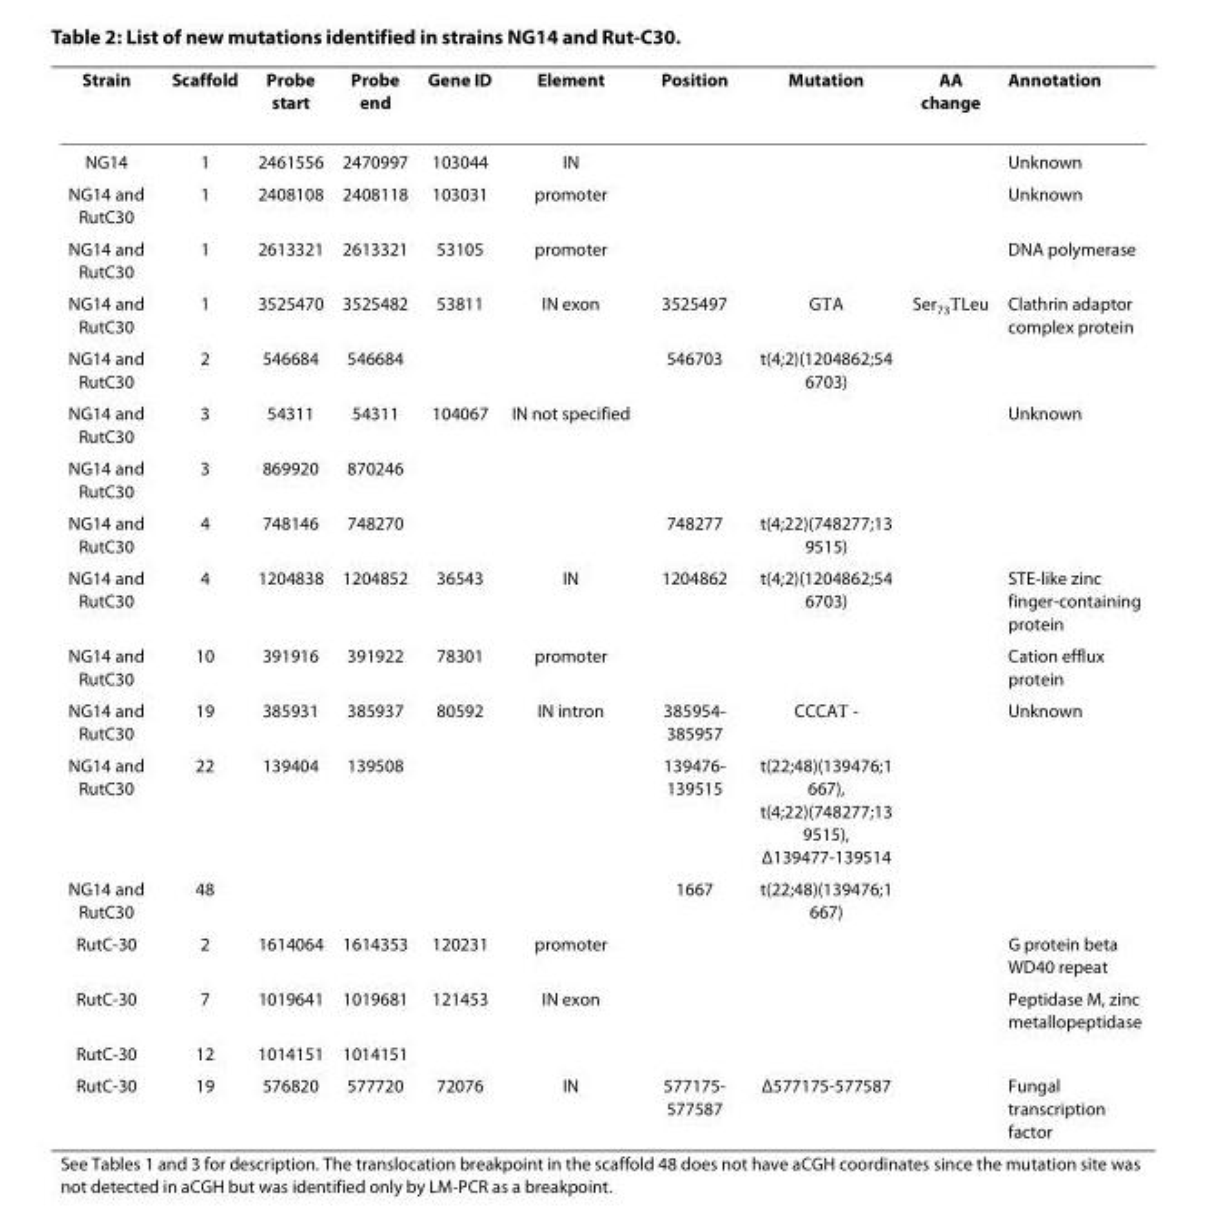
<table><thead><tr><td>Strain</td><td>Scaffold</td><td>Probe start</td><td>Probe end</td><td>Gene ID</td><td>Element</td><td>Position</td><td>Mutation</td><td>AA change</td><td>Annotation</td></tr></thead><tbody><tr><td>NG14</td><td>1</td><td>2461556</td><td>2470997</td><td>103044</td><td>IN</td><td></td><td></td><td></td><td>Unknown</td></tr><tr><td>NG14 and RutC30</td><td>1</td><td>2408108</td><td>2408118</td><td>103031</td><td>promoter</td><td></td><td></td><td></td><td>Unknown</td></tr><tr><td>NG14 and RutC30</td><td>1</td><td>2613321</td><td>2613321</td><td>53105</td><td>promoter</td><td></td><td></td><td></td><td>DNA polymerase</td></tr><tr><td>NG14 and RutC30</td><td>1</td><td>3525470</td><td>3525482</td><td>53811</td><td>IN exon</td><td>3525497</td><td>G→A</td><td>Ser<sub>73</sub>→Leu</td><td>Clathrin adaptor complex protein</td></tr><tr><td>NG14 and RutC30</td><td>2</td><td>546684</td><td>546684</td><td></td><td></td><td>546703</td><td>t(4;2)(1204862;54 6703)</td><td></td><td></td></tr><tr><td>NG14 and RutC30</td><td>3</td><td>54311</td><td>54311</td><td>104067</td><td>IN not specified</td><td></td><td></td><td></td><td>Unknown</td></tr><tr><td>NG14 and RutC30</td><td>3</td><td>869920</td><td>870246</td><td></td><td></td><td></td><td></td><td></td><td></td></tr><tr><td>NG14 and RutC30</td><td>4</td><td>748146</td><td>748270</td><td></td><td></td><td>748277</td><td>t(4;22)(748277;13 9515)</td><td></td><td></td></tr><tr><td>NG14 and RutC30</td><td>4</td><td>1204838</td><td>1204852</td><td>36543</td><td>IN</td><td>1204862</td><td>t(4;2)(1204862;54 6703)</td><td></td><td>STE-like zinc finger-containing protein</td></tr><tr><td>NG14 and RutC30</td><td>10</td><td>391916</td><td>391922</td><td>78301</td><td>promoter</td><td></td><td></td><td></td><td>Cation efflux protein</td></tr><tr><td>NG14 and RutC30</td><td>19</td><td>385931</td><td>385937</td><td>80592</td><td>IN intron</td><td>385954- 385957</td><td>CCCA→ -</td><td></td><td>Unknown</td></tr><tr><td>NG14 and RutC30</td><td>22</td><td>139404</td><td>139508</td><td></td><td></td><td>139476- 139515</td><td>t(22;48)(139476;1 667), t(4;22)(748277;13 9515), Δ139477-139514</td><td></td><td></td></tr><tr><td>NG14 and RutC30</td><td>48</td><td></td><td></td><td></td><td></td><td>1667</td><td>t(22;48)(139476;1 667)</td><td></td><td></td></tr><tr><td>RutC-30</td><td>2</td><td>1614064</td><td>1614353</td><td>120231</td><td>promoter</td><td></td><td></td><td></td><td>G protein beta WD40 repeat</td></tr><tr><td>RutC-30</td><td>7</td><td>1019641</td><td>1019681</td><td>121453</td><td>IN exon</td><td></td><td></td><td></td><td>Peptidase M, zinc metallopeptidase</td></tr><tr><td>RutC-30</td><td>12</td><td>1014151</td><td>1014151</td><td></td><td></td><td></td><td></td><td></td><td></td></tr><tr><td>RutC-30</td><td>19</td><td>576820</td><td>577720</td><td>72076</td><td>IN</td><td>577175- 577587</td><td>Δ577175-577587</td><td></td><td>Fungal transcription factor</td></tr></tbody></table>